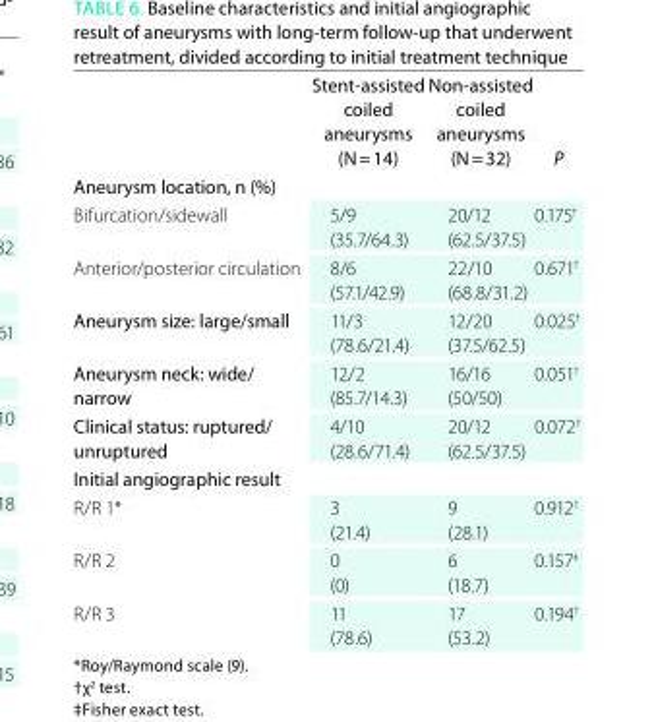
<table><thead><tr><td></td><td>stent-assisted coiled aneurysms (N = 14)</td><td>Non-assisted coiled aneurysms (N = 32)</td><td>P</td></tr></thead><tbody><tr><td colspan="4">aneurysm location, n (%)</td></tr><tr><td>Bifurcation/sidewall</td><td>5/9 (35.7/64.3)</td><td>20/12 (62.5/37.5)</td><td>0.175<sup>†</sup></td></tr><tr><td>Anterior/posterior circulation</td><td>8/6 (57.1/42.9)</td><td>22/10 (68.8/31.2)</td><td>0.671<sup>†</sup></td></tr><tr><td>aneurysm size: large/small</td><td>11/3 (78.6/21.4)</td><td>12/20 (37.5/62.5)</td><td>0.025<sup>†</sup></td></tr><tr><td>aneurysm neck: wide/ narrow</td><td>12/2 (85.7/14.3)</td><td>16/16 (50/50)</td><td>0.051<sup>†</sup></td></tr><tr><td>Clinical status: ruptured/ unruptured</td><td>4/10 (28.6/71.4)</td><td>20/12 (62.5/37.5)</td><td>0.072<sup>†</sup></td></tr><tr><td colspan="4">initial angiographic result</td></tr><tr><td>R/R 1*</td><td>3 (21.4)</td><td>9 (28.1)</td><td>0.912<sup>†</sup></td></tr><tr><td>R/R 2</td><td>0 (0)</td><td>6 (18.7)</td><td>0.157<sup>‡</sup></td></tr><tr><td>R/R 3</td><td>11 (78.6)</td><td>17 (53.2)</td><td>0.194<sup>†</sup></td></tr></tbody></table>